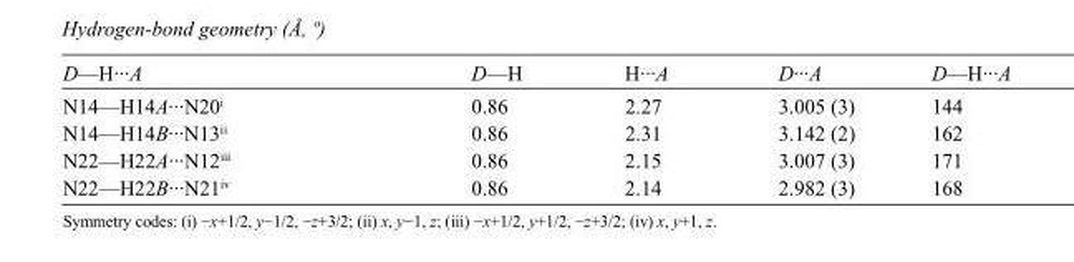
<table><tbody><tr><td>D—H···A</td><td>D—H</td><td>H···A</td><td>D···A</td><td>D—H···A</td></tr><tr><td>N14—H14A···N20<sup>i</sup></td><td>0.86</td><td>2.27</td><td>3.005 (3)</td><td>144</td></tr><tr><td>N14—H14B···N13<sup>ii</sup></td><td>0.86</td><td>2.31</td><td>3.142 (2)</td><td>162</td></tr><tr><td>N22—H22A···N12<sup>iii</sup></td><td>0.86</td><td>2.15</td><td>3.007 (3)</td><td>171</td></tr><tr><td>N22—H22B···N21<sup>iv</sup></td><td>0.86</td><td>2.14</td><td>2.982 (3)</td><td>168</td></tr></tbody></table>